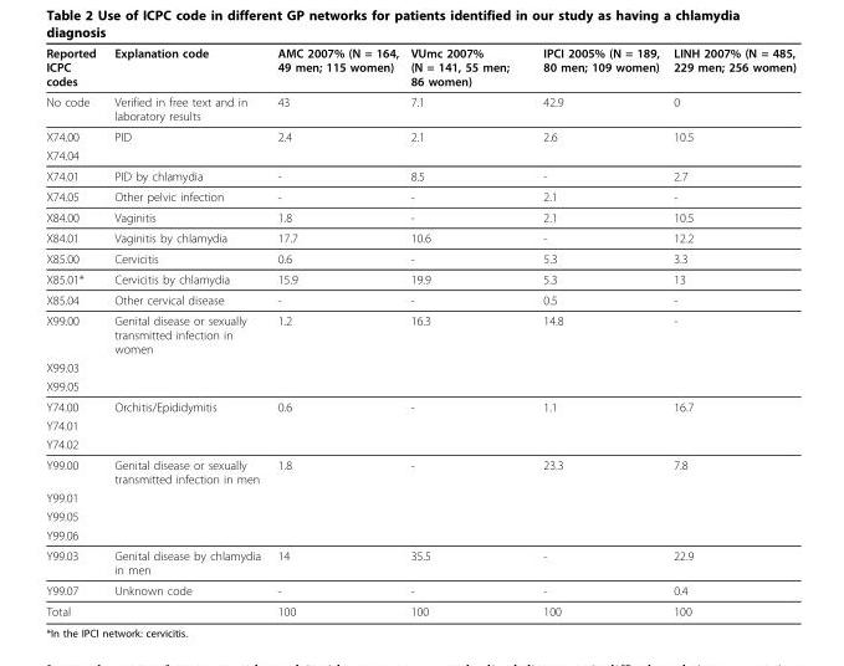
<table><thead><tr><td>Reported ICPC codes</td><td>Explanation code</td><td>AMC 2007% (N = 164, 49 men; 115 women)</td><td>VUmc 2007% (N = 141, 55 men; 86 women)</td><td>IPCI 2005% (N = 189, 80 men; 109 women)</td><td>LINH 2007% (N = 485, 229 men; 256 women)</td></tr></thead><tbody><tr><td>No code</td><td>Verified in free text and in laboratory results</td><td>43</td><td>7.1</td><td>42.9</td><td>0</td></tr><tr><td>X74.00</td><td>PID</td><td>2.4</td><td>2.1</td><td>2.6</td><td>10.5</td></tr><tr><td colspan="6">X74.04</td></tr><tr><td>X74.01</td><td>PID by chlamydia</td><td>-</td><td>8.5</td><td>-</td><td>2.7</td></tr><tr><td>X74.05</td><td>Other pelvic infection</td><td>-</td><td>-</td><td>2.1</td><td>-</td></tr><tr><td>X84.00</td><td>Vaginitis</td><td>1.8</td><td>-</td><td>2.1</td><td>10.5</td></tr><tr><td>X84.01</td><td>Vaginitis by chlamydia</td><td>17.7</td><td>10.6</td><td>-</td><td>12.2</td></tr><tr><td>X85.00</td><td>Cervicitis</td><td>0.6</td><td>-</td><td>5.3</td><td>3.3</td></tr><tr><td>X85.01*</td><td>Cervicitis by chlamydia</td><td>15.9</td><td>19.9</td><td>5.3</td><td>13</td></tr><tr><td>X85.04</td><td>Other cervical disease</td><td>-</td><td>-</td><td>0.5</td><td>-</td></tr><tr><td>X99.00</td><td>Genital disease or sexually transmitted infection in women</td><td>1.2</td><td>16.3</td><td>14.8</td><td>-</td></tr><tr><td colspan="6">X99.03</td></tr><tr><td colspan="6">X99.05</td></tr><tr><td>Y74.00</td><td>Orchitis/Epididymitis</td><td>0.6</td><td>-</td><td>1.1</td><td>16.7</td></tr><tr><td colspan="6">Y74.01</td></tr><tr><td colspan="6">Y74.02</td></tr><tr><td>Y99.00</td><td>Genital disease or sexually transmitted infection in men</td><td>1.8</td><td>-</td><td>23.3</td><td>7.8</td></tr><tr><td colspan="6">Y99.01</td></tr><tr><td colspan="6">Y99.05</td></tr><tr><td colspan="6">Y99.06</td></tr><tr><td>Y99.03</td><td>Genital disease by chlamydia in men</td><td>14</td><td>35.5</td><td>-</td><td>22.9</td></tr><tr><td>Y99.07</td><td>Unknown code</td><td>-</td><td>-</td><td>-</td><td>0.4</td></tr><tr><td>Total</td><td></td><td>100</td><td>100</td><td>100</td><td>100</td></tr></tbody></table>